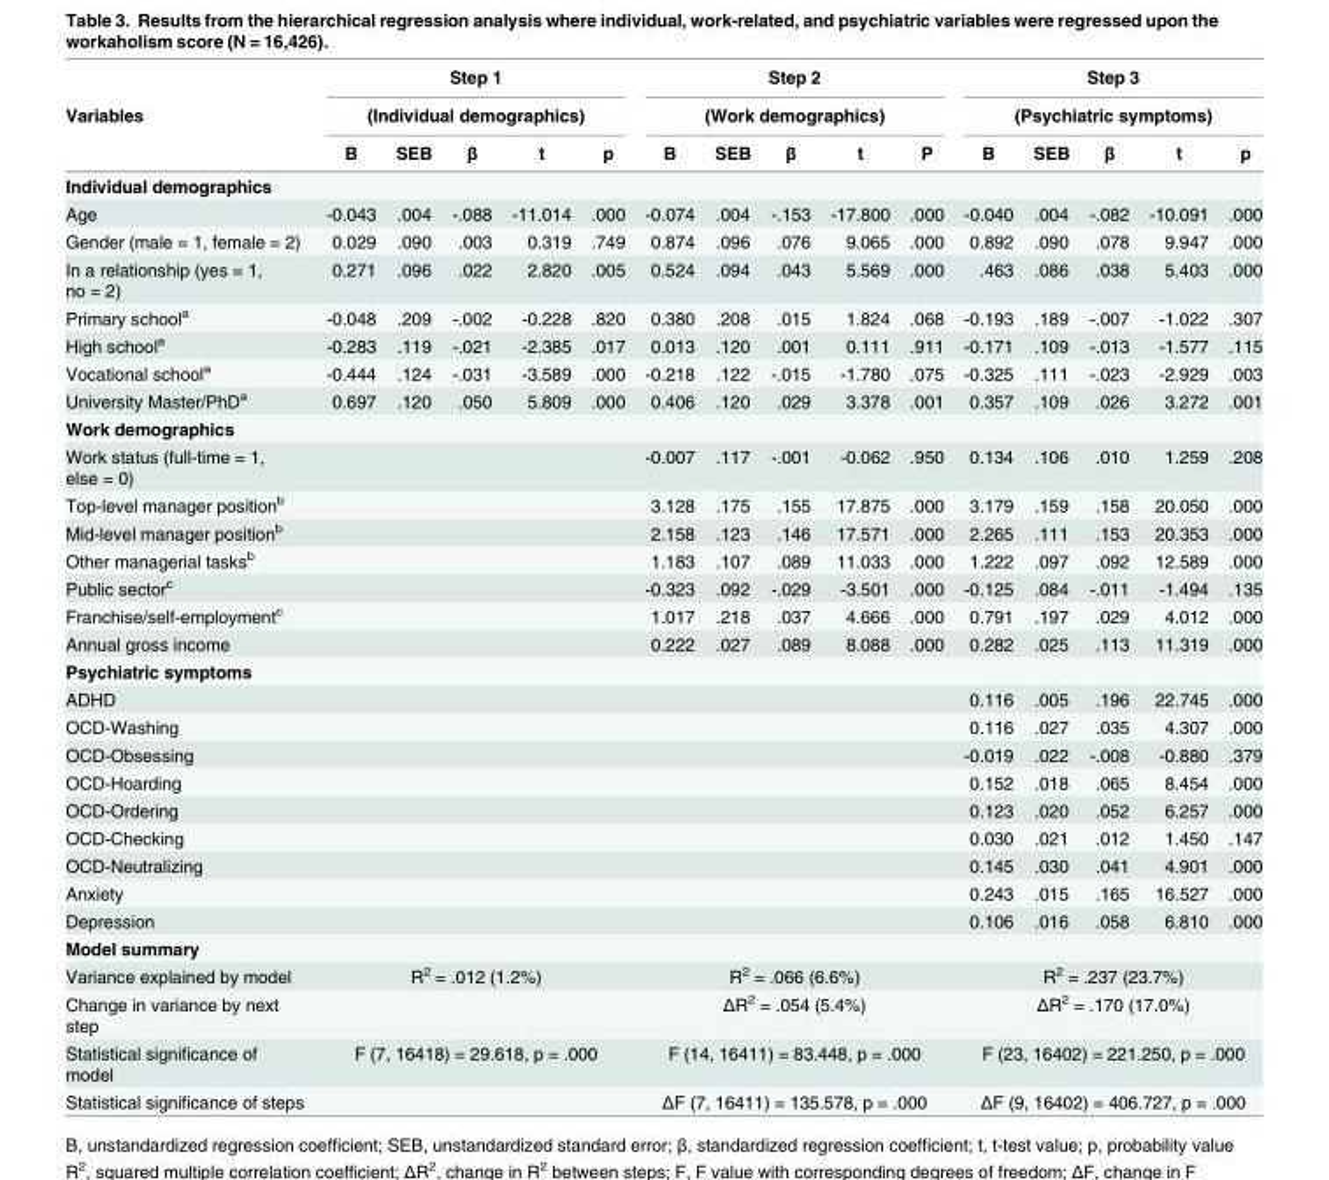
<table><thead><tr><td rowspan="3">Variables</td><td rowspan="2" colspan="5">Step 1 (Individual demographics)</td><td rowspan="2" colspan="5">Step 2 (Work demographics)</td><td rowspan="2" colspan="5">Step 3 (Psychiatric symptoms)</td></tr><tr></tr><tr><td>B</td><td>SEB</td><td>β</td><td>t</td><td>p</td><td>B</td><td>SEB</td><td>β</td><td>t</td><td>P</td><td>B</td><td>SEB</td><td>β</td><td>t</td><td>p</td></tr></thead><tbody><tr><td colspan="16">Individual demographics</td></tr><tr><td>Age</td><td>-0.043</td><td>.004</td><td>-.088</td><td>-11.014</td><td>.000</td><td>-0.074</td><td>.004</td><td>-.153</td><td>-17.800</td><td>.000</td><td>-0.040</td><td>.004</td><td>-.082</td><td>-10.091</td><td>.000</td></tr><tr><td>Gender (male = 1, female = 2)</td><td>0.029</td><td>.090</td><td>.003</td><td>0.319</td><td>.749</td><td>0.874</td><td>.096</td><td>.076</td><td>9.065</td><td>.000</td><td>0.892</td><td>.090</td><td>.078</td><td>9.947</td><td>.000</td></tr><tr><td>In a relationship (yes = 1, no = 2)</td><td>0.271</td><td>.096</td><td>.022</td><td>2.820</td><td>.005</td><td>0.524</td><td>.094</td><td>.043</td><td>5.569</td><td>.000</td><td>.463</td><td>.086</td><td>.038</td><td>5.403</td><td>.000</td></tr><tr><td>Primary school<sup>a</sup></td><td>-0.048</td><td>.209</td><td>-.002</td><td>-0.228</td><td>.820</td><td>0.380</td><td>.208</td><td>.015</td><td>1.824</td><td>.068</td><td>-0.193</td><td>.189</td><td>-.007</td><td>-1.022</td><td>.307</td></tr><tr><td>High school<sup>a</sup></td><td>-0.283</td><td>.119</td><td>-.021</td><td>-2.385</td><td>.017</td><td>0.013</td><td>.120</td><td>.001</td><td>0.111</td><td>.911</td><td>-0.171</td><td>.109</td><td>-.013</td><td>-1.577</td><td>.115</td></tr><tr><td>Vocational school<sup>a</sup></td><td>-0.444</td><td>.124</td><td>-.031</td><td>-3.589</td><td>.000</td><td>-0.218</td><td>.122</td><td>-.015</td><td>-1.780</td><td>.075</td><td>-0.325</td><td>.111</td><td>-.023</td><td>-2.929</td><td>.003</td></tr><tr><td>University Master/PhD<sup>a</sup></td><td>0.697</td><td>.120</td><td>.050</td><td>5.809</td><td>.000</td><td>0.406</td><td>.120</td><td>.029</td><td>3.378</td><td>.001</td><td>0.357</td><td>.109</td><td>.026</td><td>3.272</td><td>.001</td></tr><tr><td colspan="16">Work demographics</td></tr><tr><td>Work status (full-time = 1, else = 0)</td><td></td><td></td><td></td><td></td><td></td><td>-0.007</td><td>.117</td><td>-.001</td><td>-0.062</td><td>.950</td><td>0.134</td><td>.106</td><td>.010</td><td>1.259</td><td>.208</td></tr><tr><td>Top-level manager position<sup>b</sup></td><td></td><td></td><td></td><td></td><td></td><td>3.128</td><td>.175</td><td>.155</td><td>17.875</td><td>.000</td><td>3.179</td><td>.159</td><td>.158</td><td>20.050</td><td>.000</td></tr><tr><td>Mid-level manager position<sup>b</sup></td><td></td><td></td><td></td><td></td><td></td><td>2.158</td><td>.123</td><td>.146</td><td>17.571</td><td>.000</td><td>2.265</td><td>.111</td><td>.153</td><td>20.353</td><td>.000</td></tr><tr><td>Other managerial tasks<sup>b</sup></td><td></td><td></td><td></td><td></td><td></td><td>1.183</td><td>.107</td><td>.089</td><td>11.033</td><td>.000</td><td>1.222</td><td>.097</td><td>.092</td><td>12.589</td><td>.000</td></tr><tr><td>Public sector<sup>c</sup></td><td></td><td></td><td></td><td></td><td></td><td>-0.323</td><td>.092</td><td>-.029</td><td>-3.501</td><td>.000</td><td>-0.125</td><td>.084</td><td>-.011</td><td>-1.494</td><td>.135</td></tr><tr><td>Franchise/self-employment<sup>c</sup></td><td></td><td></td><td></td><td></td><td></td><td>1.017</td><td>.218</td><td>.037</td><td>4.666</td><td>.000</td><td>0.791</td><td>.197</td><td>.029</td><td>4.012</td><td>.000</td></tr><tr><td>Annual gross income</td><td></td><td></td><td></td><td></td><td></td><td>0.222</td><td>.027</td><td>.089</td><td>8.088</td><td>.000</td><td>0.282</td><td>.025</td><td>.113</td><td>11.319</td><td>.000</td></tr><tr><td colspan="16">Psychiatric symptoms</td></tr><tr><td>ADHD</td><td></td><td></td><td></td><td></td><td></td><td></td><td></td><td></td><td></td><td></td><td>0.116</td><td>.005</td><td>.196</td><td>22.745</td><td>.000</td></tr><tr><td>OCD-Washing</td><td></td><td></td><td></td><td></td><td></td><td></td><td></td><td></td><td></td><td></td><td>0.116</td><td>.027</td><td>.035</td><td>4.307</td><td>.000</td></tr><tr><td>OCD-Obsessing</td><td></td><td></td><td></td><td></td><td></td><td></td><td></td><td></td><td></td><td></td><td>-0.019</td><td>.022</td><td>-.008</td><td>-0.880</td><td>.379</td></tr><tr><td>OCD-Hoarding</td><td></td><td></td><td></td><td></td><td></td><td></td><td></td><td></td><td></td><td></td><td>0.152</td><td>.018</td><td>.065</td><td>8.454</td><td>.000</td></tr><tr><td>OCD-Ordering</td><td></td><td></td><td></td><td></td><td></td><td></td><td></td><td></td><td></td><td></td><td>0.123</td><td>.020</td><td>.052</td><td>6.257</td><td>.000</td></tr><tr><td>OCD-Checking</td><td></td><td></td><td></td><td></td><td></td><td></td><td></td><td></td><td></td><td></td><td>0.030</td><td>.021</td><td>.012</td><td>1.450</td><td>.147</td></tr><tr><td>OCD-Neutralizing</td><td></td><td></td><td></td><td></td><td></td><td></td><td></td><td></td><td></td><td></td><td>0.145</td><td>.030</td><td>.041</td><td>4.901</td><td>.000</td></tr><tr><td>Anxiety</td><td></td><td></td><td></td><td></td><td></td><td></td><td></td><td></td><td></td><td></td><td>0.243</td><td>.015</td><td>.165</td><td>16.527</td><td>.000</td></tr><tr><td>Depression</td><td></td><td></td><td></td><td></td><td></td><td></td><td></td><td></td><td></td><td></td><td>0.106</td><td>.016</td><td>.058</td><td>6.810</td><td>.000</td></tr><tr><td colspan="16">Model summary</td></tr><tr><td>Variance explained by model</td><td colspan="5">R<sup>2</sup> = .012 (1.2%)</td><td colspan="5">R<sup>2</sup> = .066 (6.6%)</td><td colspan="5">R<sup>2</sup> = .237 (23.7%)</td></tr><tr><td>Change in variance by next step</td><td colspan="5"></td><td colspan="5">ΔR<sup>2</sup> = .054 (5.4%)</td><td colspan="5">ΔR<sup>2</sup> = .170 (17.0%)</td></tr><tr><td>Statistical significance of model</td><td colspan="5">F (7, 16418) = 29.618, p = .000</td><td colspan="5">F (14, 16411) = 83.448, p = .000</td><td colspan="5">F (23, 16402) = 221.250, p = .000</td></tr><tr><td>Statistical significance of steps</td><td colspan="5"></td><td colspan="5">ΔF (7, 16411) = 135.578, p = .000</td><td colspan="5">ΔF (9, 16402) = 406.727, p = .000</td></tr></tbody></table>